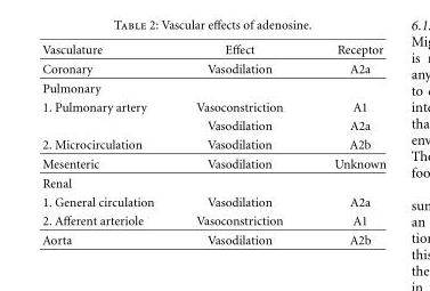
<table><thead><tr><td>Vasculature</td><td>Effect</td><td>Receptor</td></tr></thead><tbody><tr><td>Coronary</td><td>Vasodilation</td><td>A2a</td></tr><tr><td colspan="3">Pulmonary</td></tr><tr><td rowspan="2">1. Pulmonary artery</td><td>Vasoconstriction</td><td>A1</td></tr><tr><td>Vasodilation</td><td>A2a</td></tr><tr><td>2. Microcirculation</td><td>Vasodilation</td><td>A2b</td></tr><tr><td>Mesenteric</td><td>Vasodilation</td><td>Unknown</td></tr><tr><td colspan="3">Renal</td></tr><tr><td>1. General circulation</td><td>Vasodilation</td><td>A2a</td></tr><tr><td>2. Afferent arteriole</td><td>Vasoconstriction</td><td>A1</td></tr><tr><td>Aorta</td><td>Vasodilation</td><td>A2b</td></tr></tbody></table>